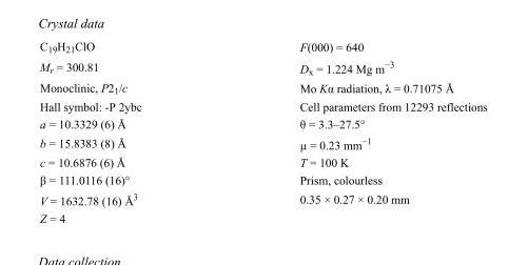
<table><tbody><tr><td>C<sub>19</sub>H<sub>21</sub>ClO</td><td>F(000) = 640</td></tr><tr><td>M<sub>r</sub> = 300.81</td><td>D<sub>x</sub> = 1.224 Mg m<sup>−3</sup></td></tr><tr><td>Monoclinic, P2<sub>1</sub>/c</td><td>Mo Kα radiation, λ = 0.71075 Å</td></tr><tr><td>Hall symbol: -P 2ybc</td><td>Cell parameters from 12293 reflections</td></tr><tr><td>a = 10.3329 (6) Å</td><td>θ = 3.3–27.5°</td></tr><tr><td>b = 15.8383 (8) Å</td><td>µ = 0.23 mm<sup>−1</sup></td></tr><tr><td>c = 10.6876 (6) Å</td><td>T = 100 K</td></tr><tr><td>β = 111.0116 (16)°</td><td>Prism, colourless</td></tr><tr><td>V = 1632.78 (16) Å<sup>3</sup></td><td>0.35 × 0.27 × 0.20 mm</td></tr><tr><td>Z = 4</td><td></td></tr></tbody></table>